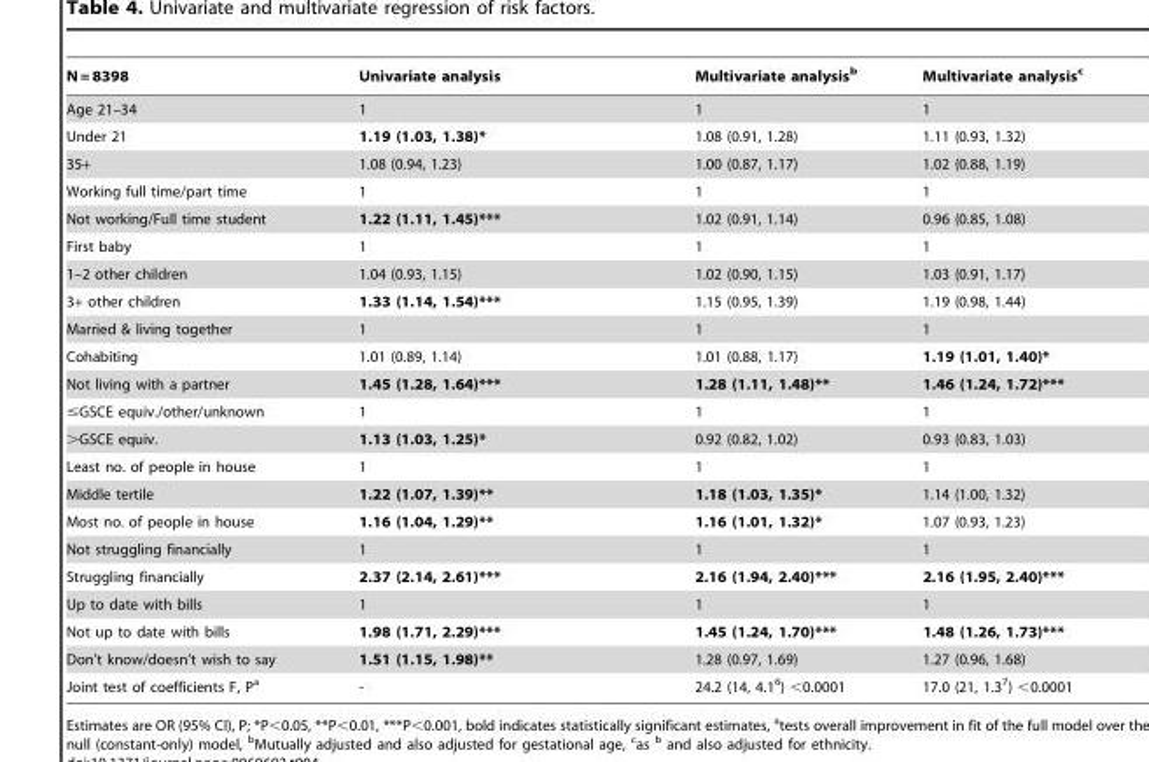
<table><thead><tr><td>N = 8398</td><td>Univariate analysis</td><td>Multivariate analysis<sup>b</sup></td><td>Multivariate analysis<sup>c</sup></td></tr></thead><tbody><tr><td>Age 21–34</td><td>1</td><td>1</td><td>1</td></tr><tr><td>Under 21</td><td>1.19 (1.03, 1.38)*</td><td>1.08 (0.91, 1.28)</td><td>1.11 (0.93, 1.32)</td></tr><tr><td>35+</td><td>1.08 (0.94, 1.23)</td><td>1.00 (0.87, 1.17)</td><td>1.02 (0.88, 1.19)</td></tr><tr><td>Working full time/part time</td><td>1</td><td>1</td><td>1</td></tr><tr><td>Not working/Full time student</td><td>1.22 (1.11, 1.45)***</td><td>1.02 (0.91, 1.14)</td><td>0.96 (0.85, 1.08)</td></tr><tr><td>First baby</td><td>1</td><td>1</td><td>1</td></tr><tr><td>1–2 other children</td><td>1.04 (0.93, 1.15)</td><td>1.02 (0.90, 1.15)</td><td>1.03 (0.91, 1.17)</td></tr><tr><td>3+ other children</td><td>1.33 (1.14, 1.54)***</td><td>1.15 (0.95, 1.39)</td><td>1.19 (0.98, 1.44)</td></tr><tr><td>Married &amp; living together</td><td>1</td><td>1</td><td>1</td></tr><tr><td>Cohabiting</td><td>1.01 (0.89, 1.14)</td><td>1.01 (0.88, 1.17)</td><td>1.19 (1.01, 1.40)*</td></tr><tr><td>Not living with a partner</td><td>1.45 (1.28, 1.64)***</td><td>1.28 (1.11, 1.48)**</td><td>1.46 (1.24, 1.72)***</td></tr><tr><td>≤GSCE equiv./other/unknown</td><td>1</td><td>1</td><td>1</td></tr><tr><td>&gt;GSCE equiv.</td><td>1.13 (1.03, 1.25)*</td><td>0.92 (0.82, 1.02)</td><td>0.93 (0.83, 1.03)</td></tr><tr><td>Least no. of people in house</td><td>1</td><td>1</td><td>1</td></tr><tr><td>Middle tertile</td><td>1.22 (1.07, 1.39)**</td><td>1.18 (1.03, 1.35)*</td><td>1.14 (1.00, 1.32)</td></tr><tr><td>Most no. of people in house</td><td>1.16 (1.04, 1.29)**</td><td>1.16 (1.01, 1.32)*</td><td>1.07 (0.93, 1.23)</td></tr><tr><td>Not struggling financially</td><td>1</td><td>1</td><td>1</td></tr><tr><td>Struggling financially</td><td>2.37 (2.14, 2.61)***</td><td>2.16 (1.94, 2.40)***</td><td>2.16 (1.95, 2.40)***</td></tr><tr><td>Up to date with bills</td><td>1</td><td>1</td><td>1</td></tr><tr><td>Not up to date with bills</td><td>1.98 (1.71, 2.29)***</td><td>1.45 (1.24, 1.70)***</td><td>1.48 (1.26, 1.73)***</td></tr><tr><td>Don’t know/doesn’t wish to say</td><td>1.51 (1.15, 1.98)**</td><td>1.28 (0.97, 1.69)</td><td>1.27 (0.96, 1.68)</td></tr><tr><td>Joint test of coefficients F, P<sup>a</sup></td><td>-</td><td>24.2 (14, 4.1<sup>6</sup>) &lt;0.0001</td><td>17.0 (21, 1.3<sup>7</sup>) &lt;0.0001</td></tr></tbody></table>